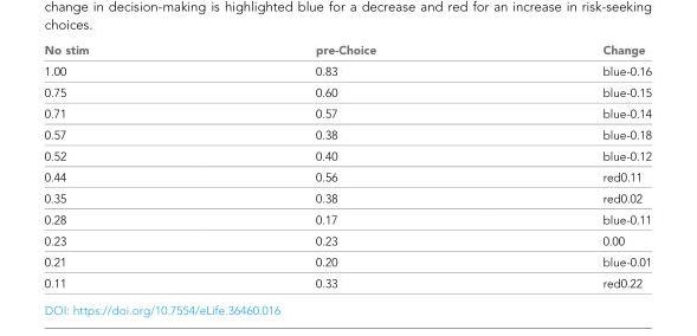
<table><thead><tr><td>No stim</td><td>pre-Choice</td><td>Change</td></tr></thead><tbody><tr><td>1.00</td><td>0.83</td><td>blue-0.16</td></tr><tr><td>0.75</td><td>0.60</td><td>blue-0.15</td></tr><tr><td>0.71</td><td>0.57</td><td>blue-0.14</td></tr><tr><td>0.57</td><td>0.38</td><td>blue-0.18</td></tr><tr><td>0.52</td><td>0.40</td><td>blue-0.12</td></tr><tr><td>0.44</td><td>0.56</td><td>red0.11</td></tr><tr><td>0.35</td><td>0.38</td><td>red0.02</td></tr><tr><td>0.28</td><td>0.17</td><td>blue-0.11</td></tr><tr><td>0.23</td><td>0.23</td><td>0.00</td></tr><tr><td>0.21</td><td>0.20</td><td>blue-0.01</td></tr><tr><td>0.11</td><td>0.33</td><td>red0.22</td></tr></tbody></table>